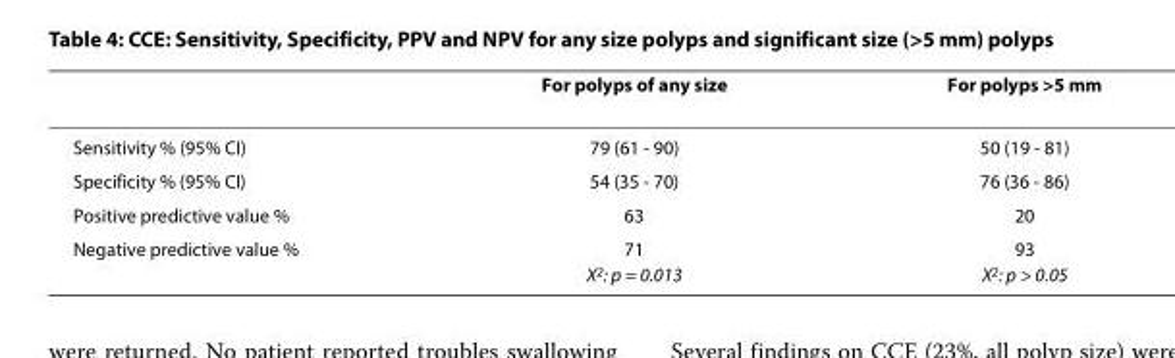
<table><thead><tr><td></td><td>For polyps of any size</td><td>For polyps &gt;5 mm</td></tr></thead><tbody><tr><td>Sensitivity % (95% CI)</td><td>79 (61 - 90)</td><td>50 (19 - 81)</td></tr><tr><td>Specificity % (95% CI)</td><td>54 (35 - 70)</td><td>76 (36 - 86)</td></tr><tr><td>Positive predictive value %</td><td>63</td><td>20</td></tr><tr><td>Negative predictive value %</td><td>71 Χ<sup>2</sup>: p = 0.013</td><td>93 Χ<sup>2</sup>: p &gt; 0.05</td></tr></tbody></table>